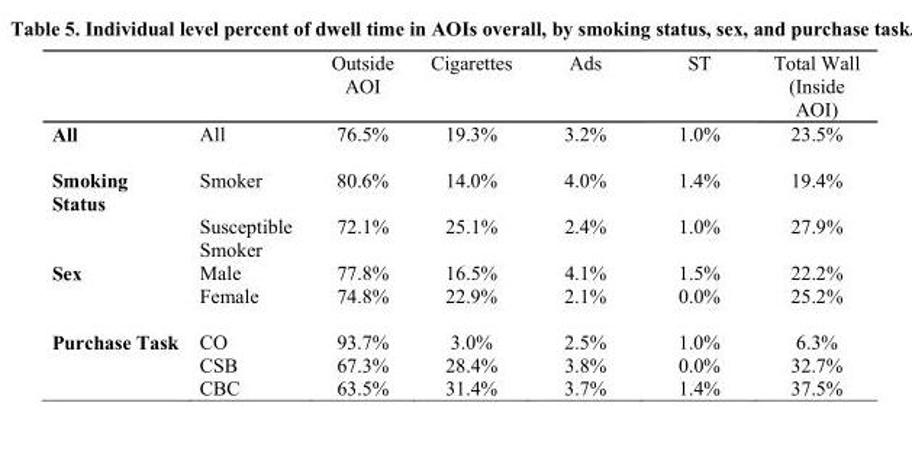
<table><thead><tr><td></td><td></td><td>Outside AOI</td><td>Cigarettes</td><td>Ads</td><td>ST</td><td>Total Wall (Inside AOI)</td></tr></thead><tbody><tr><td>All</td><td>All</td><td>76.5%</td><td>19.3%</td><td>3.2%</td><td>1.0%</td><td>23.5%</td></tr><tr><td rowspan="3">Smoking Status</td><td>Smoker</td><td>80.6%</td><td>14.0%</td><td>4.0%</td><td>1.4%</td><td>19.4%</td></tr><tr><td>Susceptible</td><td>72.1%</td><td>25.1%</td><td>2.4%</td><td>1.0%</td><td>27.9%</td></tr><tr><td>Smoker</td><td></td><td></td><td></td><td></td><td></td></tr><tr><td rowspan="2">Sex</td><td>Male</td><td>77.8%</td><td>16.5%</td><td>4.1%</td><td>1.5%</td><td>22.2%</td></tr><tr><td>Female</td><td>74.8%</td><td>22.9%</td><td>2.1%</td><td>0.0%</td><td>25.2%</td></tr><tr><td rowspan="3">Purchase Task</td><td>CO</td><td>93.7%</td><td>3.0%</td><td>2.5%</td><td>1.0%</td><td>6.3%</td></tr><tr><td>CSB</td><td>67.3%</td><td>28.4%</td><td>3.8%</td><td>0.0%</td><td>32.7%</td></tr><tr><td>CBC</td><td>63.5%</td><td>31.4%</td><td>3.7%</td><td>1.4%</td><td>37.5%</td></tr></tbody></table>